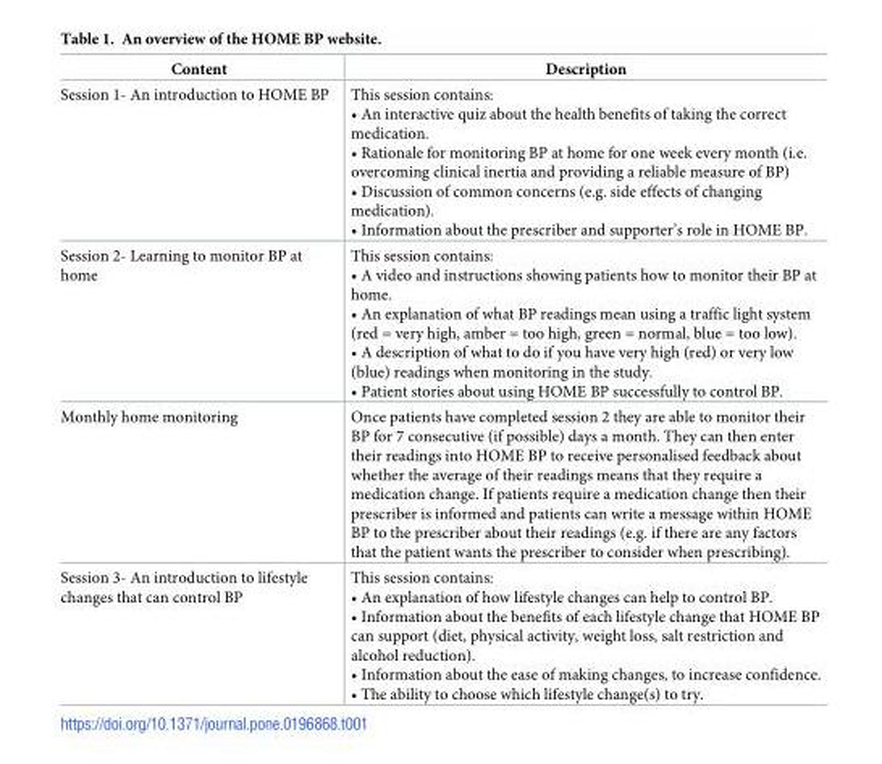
<table><thead><tr><td>Content</td><td>Description</td></tr></thead><tbody><tr><td>Session 1- An introduction to HOME BP</td><td>This session contains: • An interactive quiz about the health benefits of taking the correct medication. • Rationale for monitoring BP at home for one week every month (i.e. overcoming clinical inertia and providing a reliable measure of BP) • Discussion of common concerns (e.g. side effects of changing medication). • Information about the prescriber and supporter’s role in HOME BP.</td></tr><tr><td>Session 2- Learning to monitor BP at home</td><td>This session contains: • A video and instructions showing patients how to monitor their BP at home. • An explanation of what BP readings mean using a traffic light system (red = very high, amber = too high, green = normal, blue = too low). • A description of what to do if you have very high (red) or very low (blue) readings when monitoring in the study. • Patient stories about using HOME BP successfully to control BP.</td></tr><tr><td>Monthly home monitoring</td><td>Once patients have completed session 2 they are able to monitor their BP for 7 consecutive (if possible) days a month. They can then enter their readings into HOME BP to receive personalised feedback about whether the average of their readings means that they require a medication change. If patients require a medication change then their prescriber is informed and patients can write a message within HOME BP to the prescriber about their readings (e.g. if there are any factors that the patient wants the prescriber to consider when prescribing).</td></tr><tr><td>Session 3- An introduction to lifestyle changes that can control BP</td><td>This session contains: • An explanation of how lifestyle changes can help to control BP. • Information about the benefits of each lifestyle change that HOME BP can support (diet, physical activity, weight loss, salt restriction and alcohol reduction). • Information about the ease of making changes, to increase confidence. • The ability to choose which lifestyle change(s) to try.</td></tr></tbody></table>